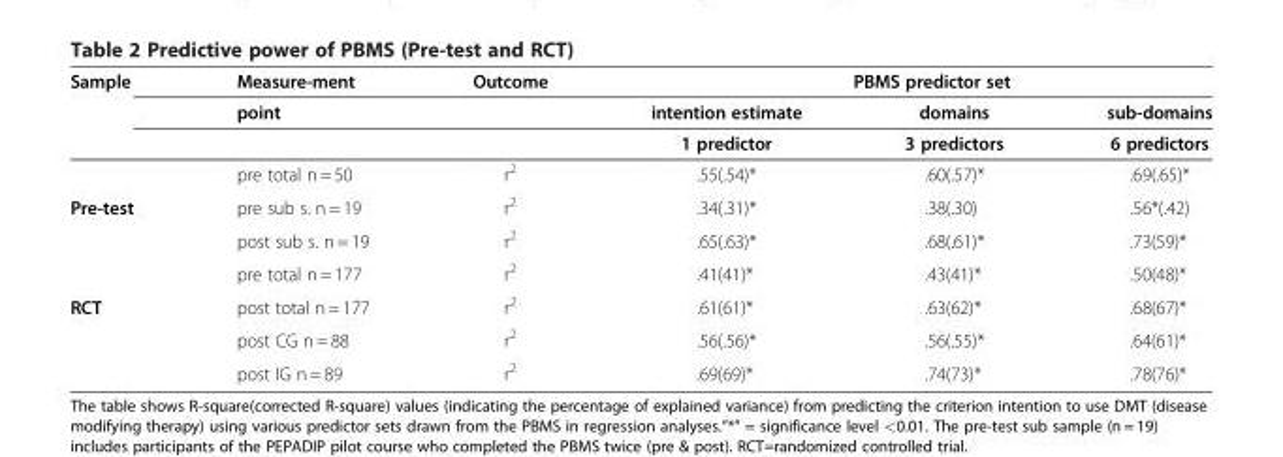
<table><thead><tr><td rowspan="3">Sample</td><td rowspan="3">Measure-ment point</td><td rowspan="3">Outcome</td><td colspan="3">PBMS predictor set</td></tr><tr><td rowspan="2">intention estimate 1 predictor</td><td rowspan="2">domains 3 predictors</td><td rowspan="2">sub-domains 6 predictors</td></tr><tr></tr></thead><tbody><tr><td></td><td>pre total n = 50</td><td>r<sup>2</sup></td><td>.55(.54)*</td><td>.60(.57)*</td><td>.69(.65)*</td></tr><tr><td rowspan="3">Pre-test</td><td>pre sub s. n = 19</td><td>r<sup>2</sup></td><td>.34(.31)*</td><td>.38(.30)</td><td>.56*(.42)</td></tr><tr><td>post sub s. n = 19</td><td>r<sup>2</sup></td><td>.65(.63)*</td><td>.68(.61)*</td><td>.73(59)*</td></tr><tr><td>pre total n = 177</td><td>r<sup>2</sup></td><td>.41(41)*</td><td>.43(41)*</td><td>.50(48)*</td></tr><tr><td rowspan="3">RCT</td><td>post total n = 177</td><td>r<sup>2</sup></td><td>.61(61)*</td><td>.63(62)*</td><td>.68(67)*</td></tr><tr><td>post CG n = 88</td><td>r<sup>2</sup></td><td>.56(.56)*</td><td>.56(.55)*</td><td>.64(61)*</td></tr><tr><td>post IG n = 89</td><td>r<sup>2</sup></td><td>.69(69)*</td><td>.74(73)*</td><td>.78(76)*</td></tr></tbody></table>